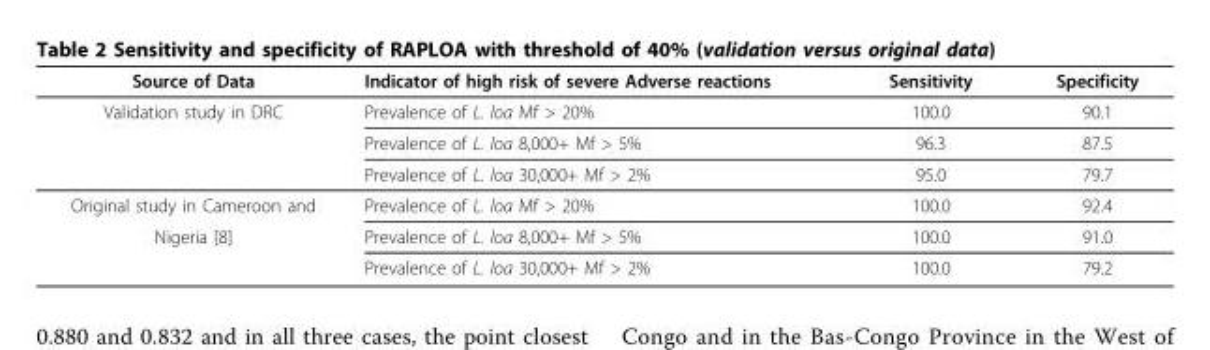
<table><thead><tr><td>Source of Data</td><td>Indicator of high risk of severe Adverse reactions</td><td>Sensitivity</td><td>Specificity</td></tr></thead><tbody><tr><td rowspan="3">Validation study in DRC</td><td>Prevalence of L. loa Mf &gt; 20%</td><td>100.0</td><td>90.1</td></tr><tr><td>Prevalence of L. loa 8,000+ Mf &gt; 5%</td><td>96.3</td><td>87.5</td></tr><tr><td>Prevalence of L. loa 30,000+ Mf &gt; 2%</td><td>95.0</td><td>79.7</td></tr><tr><td>Original study in Cameroon and</td><td>Prevalence of L. loa Mf &gt; 20%</td><td>100.0</td><td>92.4</td></tr><tr><td rowspan="2">Nigeria [8]</td><td>Prevalence of L. loa 8,000+ Mf &gt; 5%</td><td>100.0</td><td>91.0</td></tr><tr><td>Prevalence of L. loa 30,000+ Mf &gt; 2%</td><td>100.0</td><td>79.2</td></tr></tbody></table>